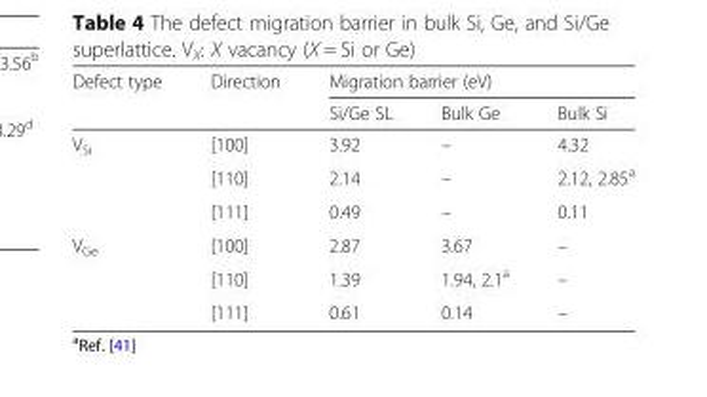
<table><thead><tr><td rowspan="2">Defect type</td><td rowspan="2">Direction</td><td colspan="3">Migration barrier (eV)</td></tr><tr><td>Si/Ge SL</td><td>Bulk Ge</td><td>Bulk Si</td></tr></thead><tbody><tr><td rowspan="3">V<sub>Si</sub></td><td>[100]</td><td>3.92</td><td>–</td><td>4.32</td></tr><tr><td>[110]</td><td>2.14</td><td>–</td><td>2.12, 2.85<sup>a</sup></td></tr><tr><td>[111]</td><td>0.49</td><td>–</td><td>0.11</td></tr><tr><td rowspan="3">V<sub>Ge</sub></td><td>[100]</td><td>2.87</td><td>3.67</td><td>–</td></tr><tr><td>[110]</td><td>1.39</td><td>1.94, 2.1<sup>a</sup></td><td>–</td></tr><tr><td>[111]</td><td>0.61</td><td>0.14</td><td>–</td></tr></tbody></table>